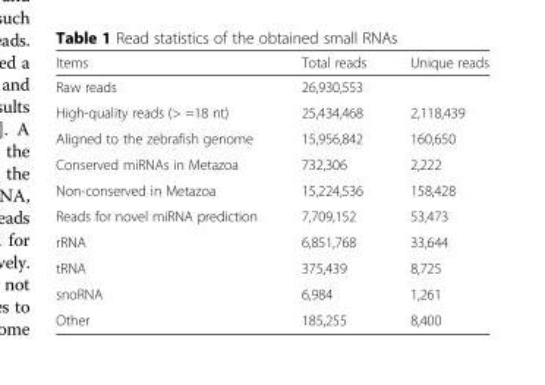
<table><thead><tr><td>Items</td><td>Total reads</td><td>Unique reads</td></tr></thead><tbody><tr><td>Raw reads</td><td>26,930,553</td><td></td></tr><tr><td>High-quality reads (&gt; =18 nt)</td><td>25,434,468</td><td>2,118,439</td></tr><tr><td>Aligned to the zebrafish genome</td><td>15,956,842</td><td>160,650</td></tr><tr><td>Conserved miRNAs in Metazoa</td><td>732,306</td><td>2,222</td></tr><tr><td>Non-conserved in Metazoa</td><td>15,224,536</td><td>158,428</td></tr><tr><td>Reads for novel miRNA prediction</td><td>7,709,152</td><td>53,473</td></tr><tr><td>rRNA</td><td>6,851,768</td><td>33,644</td></tr><tr><td>tRNA</td><td>375,439</td><td>8,725</td></tr><tr><td>snoRNA</td><td>6,984</td><td>1,261</td></tr><tr><td>Other</td><td>185,255</td><td>8,400</td></tr></tbody></table>